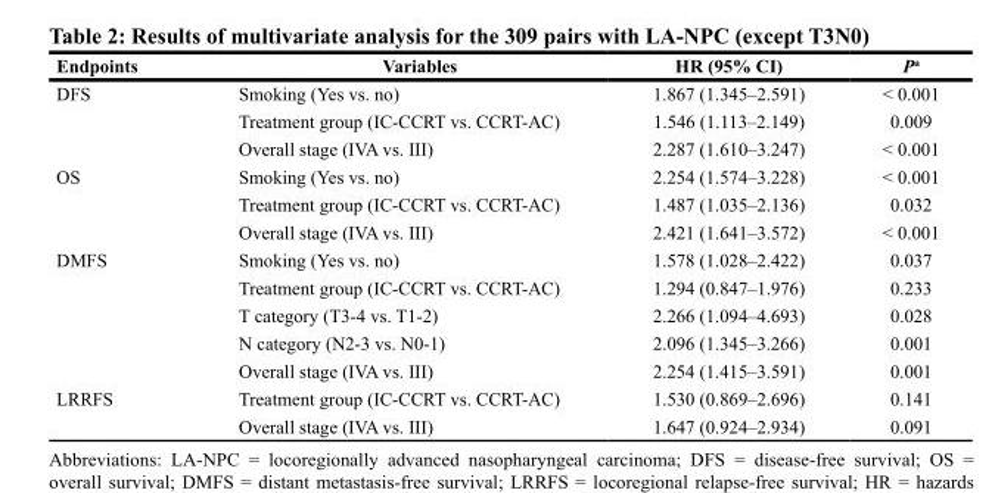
<table><thead><tr><td>Endpoints</td><td>Variables</td><td>HR (95% CI)</td><td>P<sup>a</sup></td></tr></thead><tbody><tr><td rowspan="3">DFS</td><td>Smoking (Yes vs. no)</td><td>1.867 (1.345–2.591)</td><td>&lt; 0.001</td></tr><tr><td>Treatment group (IC-CCRT vs. CCRT-AC)</td><td>1.546 (1.113–2.149)</td><td>0.009</td></tr><tr><td>Overall stage (IVA vs. III)</td><td>2.287 (1.610–3.247)</td><td>&lt; 0.001</td></tr><tr><td rowspan="3">OS</td><td>Smoking (Yes vs. no)</td><td>2.254 (1.574–3.228)</td><td>&lt; 0.001</td></tr><tr><td>Treatment group (IC-CCRT vs. CCRT-AC)</td><td>1.487 (1.035–2.136)</td><td>0.032</td></tr><tr><td>Overall stage (IVA vs. III)</td><td>2.421 (1.641–3.572)</td><td>&lt; 0.001</td></tr><tr><td rowspan="5">DMFS</td><td>Smoking (Yes vs. no)</td><td>1.578 (1.028–2.422)</td><td>0.037</td></tr><tr><td>Treatment group (IC-CCRT vs. CCRT-AC)</td><td>1.294 (0.847–1.976)</td><td>0.233</td></tr><tr><td>T category (T3-4 vs. T1-2)</td><td>2.266 (1.094–4.693)</td><td>0.028</td></tr><tr><td>N category (N2-3 vs. N0-1)</td><td>2.096 (1.345–3.266)</td><td>0.001</td></tr><tr><td>Overall stage (IVA vs. III)</td><td>2.254 (1.415–3.591)</td><td>0.001</td></tr><tr><td rowspan="2">LRRFS</td><td>Treatment group (IC-CCRT vs. CCRT-AC)</td><td>1.530 (0.869–2.696)</td><td>0.141</td></tr><tr><td>Overall stage (IVA vs. III)</td><td>1.647 (0.924–2.934)</td><td>0.091</td></tr></tbody></table>